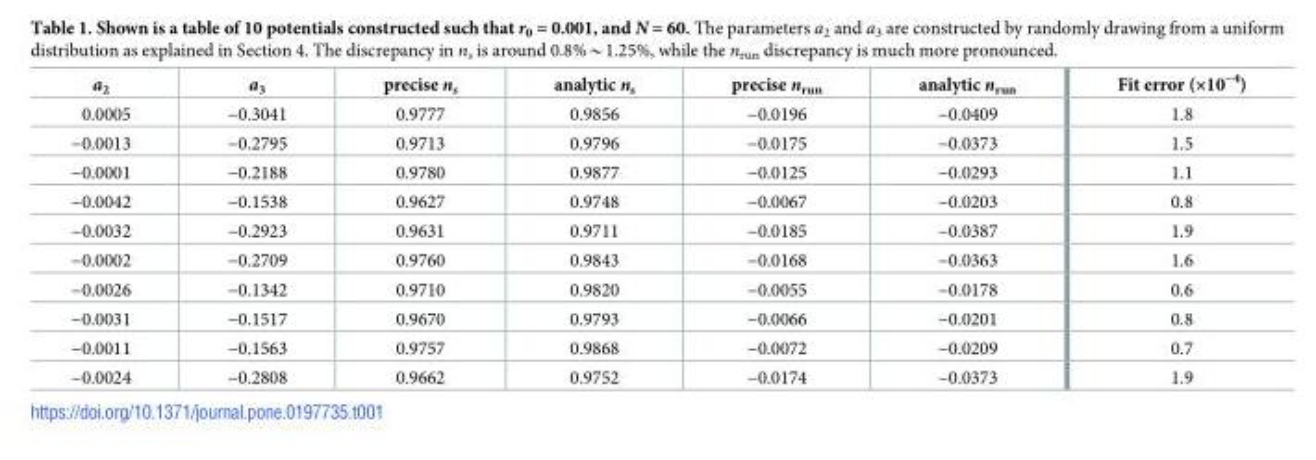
<table><thead><tr><td>a<sub>2</sub></td><td>a<sub>3</sub></td><td>precise n<sub>s</sub></td><td>analytic n<sub>s</sub></td><td>precise n<sub>run</sub></td><td>analytic n<sub>run</sub></td><td>Fit error (×10<sup>−4</sup>)</td></tr></thead><tbody><tr><td>0.0005</td><td>−0.3041</td><td>0.9777</td><td>0.9856</td><td>−0.0196</td><td>−0.0409</td><td>1.8</td></tr><tr><td>−0.0013</td><td>−0.2795</td><td>0.9713</td><td>0.9796</td><td>−0.0175</td><td>−0.0373</td><td>1.5</td></tr><tr><td>−0.0001</td><td>−0.2188</td><td>0.9780</td><td>0.9877</td><td>−0.0125</td><td>−0.0293</td><td>1.1</td></tr><tr><td>−0.0042</td><td>−0.1538</td><td>0.9627</td><td>0.9748</td><td>−0.0067</td><td>−0.0203</td><td>0.8</td></tr><tr><td>−0.0032</td><td>−0.2923</td><td>0.9631</td><td>0.9711</td><td>−0.0185</td><td>−0.0387</td><td>1.9</td></tr><tr><td>−0.0002</td><td>−0.2709</td><td>0.9760</td><td>0.9843</td><td>−0.0168</td><td>−0.0363</td><td>1.6</td></tr><tr><td>−0.0026</td><td>−0.1342</td><td>0.9710</td><td>0.9820</td><td>−0.0055</td><td>−0.0178</td><td>0.6</td></tr><tr><td>−0.0031</td><td>−0.1517</td><td>0.9670</td><td>0.9793</td><td>−0.0066</td><td>−0.0201</td><td>0.8</td></tr><tr><td>−0.0011</td><td>−0.1563</td><td>0.9757</td><td>0.9868</td><td>−0.0072</td><td>−0.0209</td><td>0.7</td></tr><tr><td>−0.0024</td><td>−0.2808</td><td>0.9662</td><td>0.9752</td><td>−0.0174</td><td>−0.0373</td><td>1.9</td></tr></tbody></table>